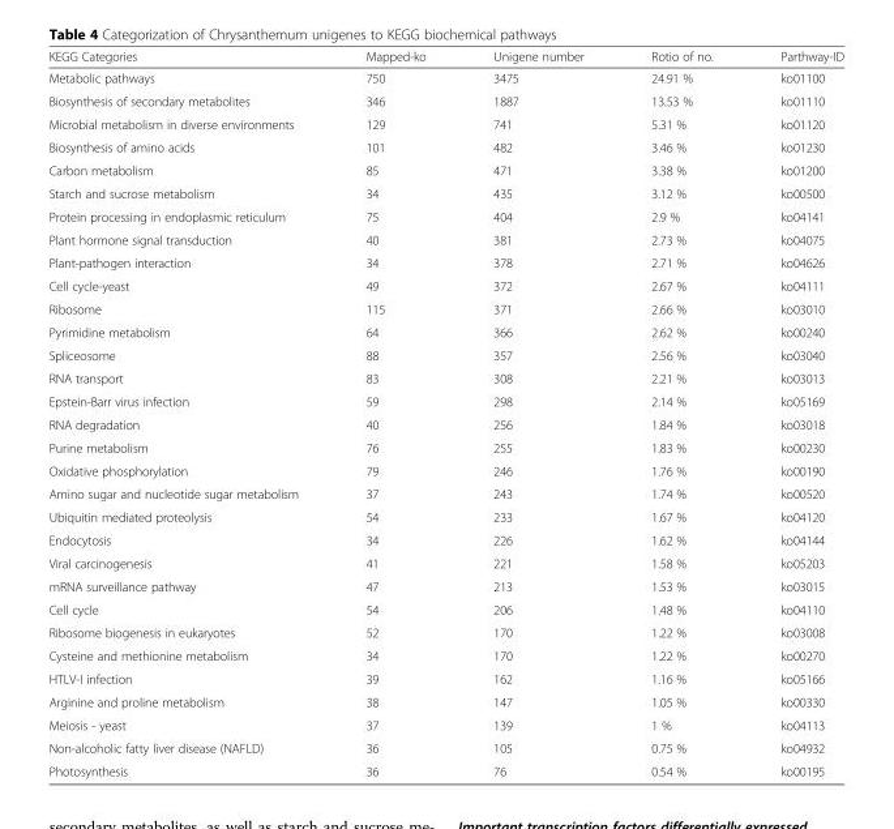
<table><thead><tr><td>KEGG Categories</td><td>Mapped-ko</td><td>Unigene number</td><td>Rotio of no.</td><td>Parthway-ID</td></tr></thead><tbody><tr><td>Metabolic pathways</td><td>750</td><td>3475</td><td>24.91 %</td><td>ko01100</td></tr><tr><td>Biosynthesis of secondary metabolites</td><td>346</td><td>1887</td><td>13.53 %</td><td>ko01110</td></tr><tr><td>Microbial metabolism in diverse environments</td><td>129</td><td>741</td><td>5.31 %</td><td>ko01120</td></tr><tr><td>Biosynthesis of amino acids</td><td>101</td><td>482</td><td>3.46 %</td><td>ko01230</td></tr><tr><td>Carbon metabolism</td><td>85</td><td>471</td><td>3.38 %</td><td>ko01200</td></tr><tr><td>Starch and sucrose metabolism</td><td>34</td><td>435</td><td>3.12 %</td><td>ko00500</td></tr><tr><td>Protein processing in endoplasmic reticulum</td><td>75</td><td>404</td><td>2.9 %</td><td>ko04141</td></tr><tr><td>Plant hormone signal transduction</td><td>40</td><td>381</td><td>2.73 %</td><td>ko04075</td></tr><tr><td>Plant-pathogen interaction</td><td>34</td><td>378</td><td>2.71 %</td><td>ko04626</td></tr><tr><td>Cell cycle-yeast</td><td>49</td><td>372</td><td>2.67 %</td><td>ko04111</td></tr><tr><td>Ribosome</td><td>115</td><td>371</td><td>2.66 %</td><td>ko03010</td></tr><tr><td>Pyrimidine metabolism</td><td>64</td><td>366</td><td>2.62 %</td><td>ko00240</td></tr><tr><td>Spliceosome</td><td>88</td><td>357</td><td>2.56 %</td><td>ko03040</td></tr><tr><td>RNA transport</td><td>83</td><td>308</td><td>2.21 %</td><td>ko03013</td></tr><tr><td>Epstein-Barr virus infection</td><td>59</td><td>298</td><td>2.14 %</td><td>ko05169</td></tr><tr><td>RNA degradation</td><td>40</td><td>256</td><td>1.84 %</td><td>ko03018</td></tr><tr><td>Purine metabolism</td><td>76</td><td>255</td><td>1.83 %</td><td>ko00230</td></tr><tr><td>Oxidative phosphorylation</td><td>79</td><td>246</td><td>1.76 %</td><td>ko00190</td></tr><tr><td>Amino sugar and nucleotide sugar metabolism</td><td>37</td><td>243</td><td>1.74 %</td><td>ko00520</td></tr><tr><td>Ubiquitin mediated proteolysis</td><td>54</td><td>233</td><td>1.67 %</td><td>ko04120</td></tr><tr><td>Endocytosis</td><td>34</td><td>226</td><td>1.62 %</td><td>ko04144</td></tr><tr><td>Viral carcinogenesis</td><td>41</td><td>221</td><td>1.58 %</td><td>ko05203</td></tr><tr><td>mRNA surveillance pathway</td><td>47</td><td>213</td><td>1.53 %</td><td>ko03015</td></tr><tr><td>Cell cycle</td><td>54</td><td>206</td><td>1.48 %</td><td>ko04110</td></tr><tr><td>Ribosome biogenesis in eukaryotes</td><td>52</td><td>170</td><td>1.22 %</td><td>ko03008</td></tr><tr><td>Cysteine and methionine metabolism</td><td>34</td><td>170</td><td>1.22 %</td><td>ko00270</td></tr><tr><td>HTLV-I infection</td><td>39</td><td>162</td><td>1.16 %</td><td>ko05166</td></tr><tr><td>Arginine and proline metabolism</td><td>38</td><td>147</td><td>1.05 %</td><td>ko00330</td></tr><tr><td>Meiosis - yeast</td><td>37</td><td>139</td><td>1 %</td><td>ko04113</td></tr><tr><td>Non-alcoholic fatty liver disease (NAFLD)</td><td>36</td><td>105</td><td>0.75 %</td><td>ko04932</td></tr><tr><td>Photosynthesis</td><td>36</td><td>76</td><td>0.54 %</td><td>ko00195</td></tr></tbody></table>